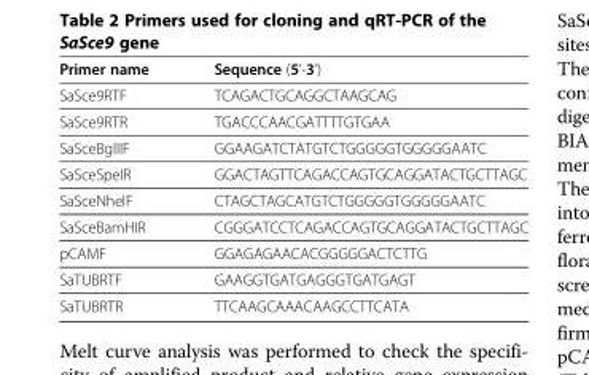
<table><thead><tr><td>Primer name</td><td>Sequence (5’-3’)</td></tr></thead><tbody><tr><td>SaSce9RTF</td><td>TCAGACTGCAGGCTAAGCAG</td></tr><tr><td>SaSce9RTR</td><td>TGACCCAACGATTTTGTGAA</td></tr><tr><td>SaSceBglIIF</td><td>GGAAGATCTATGTCTGGGGGTGGGGGAATC</td></tr><tr><td>SaSceSpeIR</td><td>GGACTAGTTCAGACCAGTGCAGGATACTGCTTAGC</td></tr><tr><td>SaSceNheIF</td><td>CTAGCTAGCATGTCTGGGGGTGGGGGAATC</td></tr><tr><td>SaSceBamHIR</td><td>CGGGATCCTCAGACCAGTGCAGGATACTGCTTAGC</td></tr><tr><td>pCAMF</td><td>GGAGAGAACACGGGGGACTCTTG</td></tr><tr><td>SaTUBRTF</td><td>GAAGGTGATGAGGGTGATGAGT</td></tr><tr><td>SaTUBRTR</td><td>TTCAAGCAAACAAGCCTTCATA</td></tr></tbody></table>